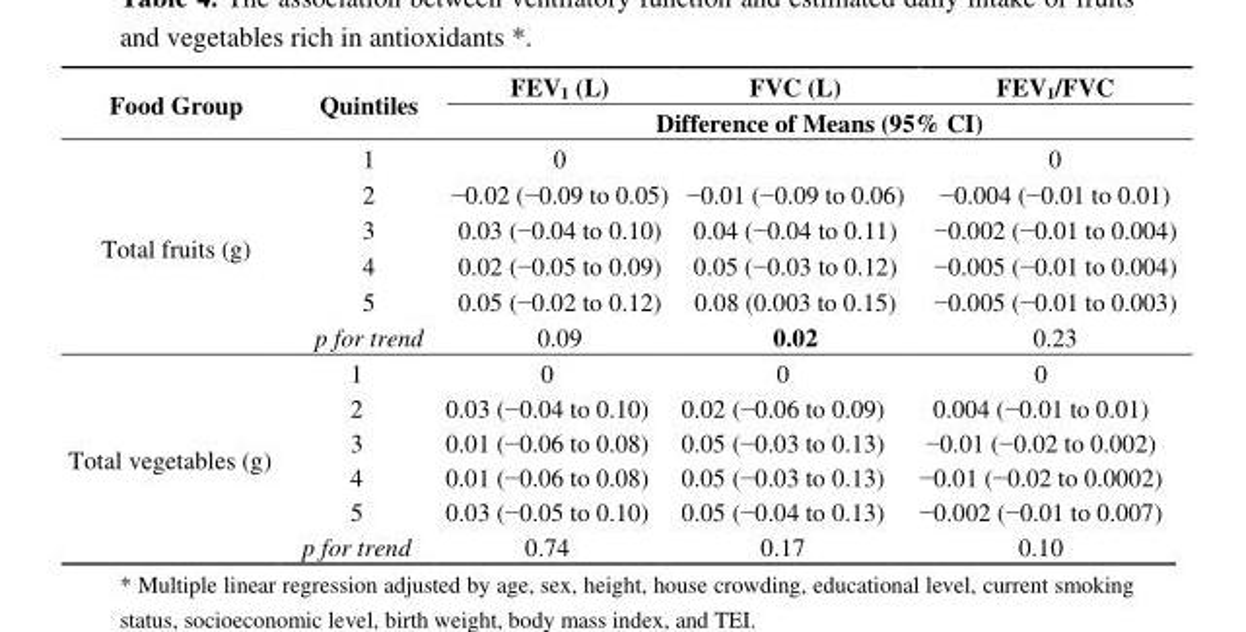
<table><thead><tr><td rowspan="2">Food Group</td><td rowspan="2">Quintiles</td><td>FEV<sub>1</sub> (L)</td><td>FVC (L)</td><td>FEV<sub>1</sub>/FVC</td></tr><tr><td colspan="3">Difference of Means (95% CI)</td></tr></thead><tbody><tr><td rowspan="6">Total fruits (g)</td><td>1</td><td>0</td><td></td><td>0</td></tr><tr><td>2</td><td>−0.02 (−0.09 to 0.05)</td><td>−0.01 (−0.09 to 0.06)</td><td>−0.004 (−0.01 to 0.01)</td></tr><tr><td>3</td><td>0.03 (−0.04 to 0.10)</td><td>0.04 (−0.04 to 0.11)</td><td>−0.002 (−0.01 to 0.004)</td></tr><tr><td>4</td><td>0.02 (−0.05 to 0.09)</td><td>0.05 (−0.03 to 0.12)</td><td>−0.005 (−0.01 to 0.004)</td></tr><tr><td>5</td><td>0.05 (−0.02 to 0.12)</td><td>0.08 (0.003 to 0.15)</td><td>−0.005 (−0.01 to 0.003)</td></tr><tr><td>p for trend</td><td>0.09</td><td>0.02</td><td>0.23</td></tr><tr><td rowspan="6">Total vegetables (g)</td><td>1</td><td>0</td><td>0</td><td>0</td></tr><tr><td>2</td><td>0.03 (−0.04 to 0.10)</td><td>0.02 (−0.06 to 0.09)</td><td>0.004 (−0.01 to 0.01)</td></tr><tr><td>3</td><td>0.01 (−0.06 to 0.08)</td><td>0.05 (−0.03 to 0.13)</td><td>−0.01 (−0.02 to 0.002)</td></tr><tr><td>4</td><td>0.01 (−0.06 to 0.08)</td><td>0.05 (−0.03 to 0.13)</td><td>−0.01 (−0.02 to 0.0002)</td></tr><tr><td>5</td><td>0.03 (−0.05 to 0.10)</td><td>0.05 (−0.04 to 0.13)</td><td>−0.002 (−0.01 to 0.007)</td></tr><tr><td>p for trend</td><td>0.74</td><td>0.17</td><td>0.10</td></tr></tbody></table>